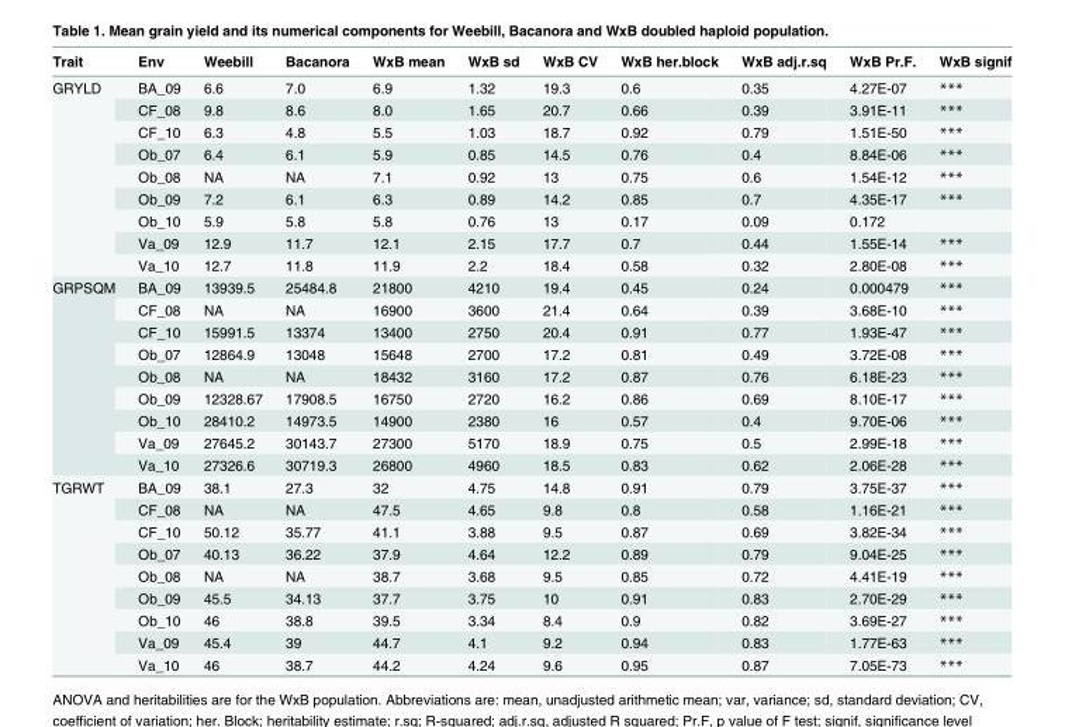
<table><thead><tr><td>Trait</td><td>Env</td><td>Weebill</td><td>Bacanora</td><td>WxB mean</td><td>WxB sd</td><td>WxB CV</td><td>WxB her.block</td><td>WxB adj.r.sq</td><td>WxB Pr.F.</td><td>WxB signif</td></tr></thead><tbody><tr><td rowspan="9">GRYLD</td><td>BA_09</td><td>6.6</td><td>7.0</td><td>6.9</td><td>1.32</td><td>19.3</td><td>0.6</td><td>0.35</td><td>4.27E-07</td><td>***</td></tr><tr><td>CF_08</td><td>9.8</td><td>8.6</td><td>8.0</td><td>1.65</td><td>20.7</td><td>0.66</td><td>0.39</td><td>3.91E-11</td><td>***</td></tr><tr><td>CF_10</td><td>6.3</td><td>4.8</td><td>5.5</td><td>1.03</td><td>18.7</td><td>0.92</td><td>0.79</td><td>1.51E-50</td><td>***</td></tr><tr><td>Ob_07</td><td>6.4</td><td>6.1</td><td>5.9</td><td>0.85</td><td>14.5</td><td>0.76</td><td>0.4</td><td>8.84E-06</td><td>***</td></tr><tr><td>Ob_08</td><td>NA</td><td>NA</td><td>7.1</td><td>0.92</td><td>13</td><td>0.75</td><td>0.6</td><td>1.54E-12</td><td>***</td></tr><tr><td>Ob_09</td><td>7.2</td><td>6.1</td><td>6.3</td><td>0.89</td><td>14.2</td><td>0.85</td><td>0.7</td><td>4.35E-17</td><td>***</td></tr><tr><td>Ob_10</td><td>5.9</td><td>5.8</td><td>5.8</td><td>0.76</td><td>13</td><td>0.17</td><td>0.09</td><td>0.172</td><td></td></tr><tr><td>Va_09</td><td>12.9</td><td>11.7</td><td>12.1</td><td>2.15</td><td>17.7</td><td>0.7</td><td>0.44</td><td>1.55E-14</td><td>***</td></tr><tr><td>Va_10</td><td>12.7</td><td>11.8</td><td>11.9</td><td>2.2</td><td>18.4</td><td>0.58</td><td>0.32</td><td>2.80E-08</td><td>***</td></tr><tr><td rowspan="9">GRPSQM</td><td>BA_09</td><td>13939.5</td><td>25484.8</td><td>21800</td><td>4210</td><td>19.4</td><td>0.45</td><td>0.24</td><td>0.000479</td><td>***</td></tr><tr><td>CF_08</td><td>NA</td><td>NA</td><td>16900</td><td>3600</td><td>21.4</td><td>0.64</td><td>0.39</td><td>3.68E-10</td><td>***</td></tr><tr><td>CF_10</td><td>15991.5</td><td>13374</td><td>13400</td><td>2750</td><td>20.4</td><td>0.91</td><td>0.77</td><td>1.93E-47</td><td>***</td></tr><tr><td>Ob_07</td><td>12864.9</td><td>13048</td><td>15648</td><td>2700</td><td>17.2</td><td>0.81</td><td>0.49</td><td>3.72E-08</td><td>***</td></tr><tr><td>Ob_08</td><td>NA</td><td>NA</td><td>18432</td><td>3160</td><td>17.2</td><td>0.87</td><td>0.76</td><td>6.18E-23</td><td>***</td></tr><tr><td>Ob_09</td><td>12328.67</td><td>17908.5</td><td>16750</td><td>2720</td><td>16.2</td><td>0.86</td><td>0.69</td><td>8.10E-17</td><td>***</td></tr><tr><td>Ob_10</td><td>28410.2</td><td>14973.5</td><td>14900</td><td>2380</td><td>16</td><td>0.57</td><td>0.4</td><td>9.70E-06</td><td>***</td></tr><tr><td>Va_09</td><td>27645.2</td><td>30143.7</td><td>27300</td><td>5170</td><td>18.9</td><td>0.75</td><td>0.5</td><td>2.99E-18</td><td>***</td></tr><tr><td>Va_10</td><td>27326.6</td><td>30719.3</td><td>26800</td><td>4960</td><td>18.5</td><td>0.83</td><td>0.62</td><td>2.06E-28</td><td>***</td></tr><tr><td rowspan="9">TGRWT</td><td>BA_09</td><td>38.1</td><td>27.3</td><td>32</td><td>4.75</td><td>14.8</td><td>0.91</td><td>0.79</td><td>3.75E-37</td><td>***</td></tr><tr><td>CF_08</td><td>NA</td><td>NA</td><td>47.5</td><td>4.65</td><td>9.8</td><td>0.8</td><td>0.58</td><td>1.16E-21</td><td>***</td></tr><tr><td>CF_10</td><td>50.12</td><td>35.77</td><td>41.1</td><td>3.88</td><td>9.5</td><td>0.87</td><td>0.69</td><td>3.82E-34</td><td>***</td></tr><tr><td>Ob_07</td><td>40.13</td><td>36.22</td><td>37.9</td><td>4.64</td><td>12.2</td><td>0.89</td><td>0.79</td><td>9.04E-25</td><td>***</td></tr><tr><td>Ob_08</td><td>NA</td><td>NA</td><td>38.7</td><td>3.68</td><td>9.5</td><td>0.85</td><td>0.72</td><td>4.41E-19</td><td>***</td></tr><tr><td>Ob_09</td><td>45.5</td><td>34.13</td><td>37.7</td><td>3.75</td><td>10</td><td>0.91</td><td>0.83</td><td>2.70E-29</td><td>***</td></tr><tr><td>Ob_10</td><td>46</td><td>38.8</td><td>39.5</td><td>3.34</td><td>8.4</td><td>0.9</td><td>0.82</td><td>3.69E-27</td><td>***</td></tr><tr><td>Va_09</td><td>45.4</td><td>39</td><td>44.7</td><td>4.1</td><td>9.2</td><td>0.94</td><td>0.83</td><td>1.77E-63</td><td>***</td></tr><tr><td>Va_10</td><td>46</td><td>38.7</td><td>44.2</td><td>4.24</td><td>9.6</td><td>0.95</td><td>0.87</td><td>7.05E-73</td><td>***</td></tr></tbody></table>